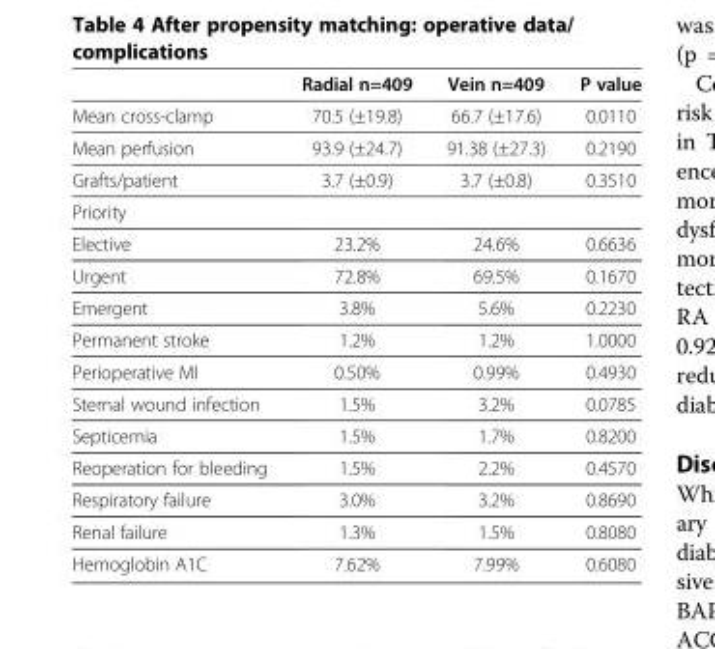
<table><thead><tr><td></td><td>Radial n=409</td><td>Vein n=409</td><td>P value</td></tr></thead><tbody><tr><td>Mean cross-clamp</td><td>70.5 (±19.8)</td><td>66.7 (±17.6)</td><td>0.0110</td></tr><tr><td>Mean perfusion</td><td>93.9 (±24.7)</td><td>91.38 (±27.3)</td><td>0.2190</td></tr><tr><td>Grafts/patient</td><td>3.7 (±0.9)</td><td>3.7 (±0.8)</td><td>0.3510</td></tr><tr><td colspan="4">Priority</td></tr><tr><td>Elective</td><td>23.2%</td><td>24.6%</td><td>0.6636</td></tr><tr><td>Urgent</td><td>72.8%</td><td>69.5%</td><td>0.1670</td></tr><tr><td>Emergent</td><td>3.8%</td><td>5.6%</td><td>0.2230</td></tr><tr><td>Permanent stroke</td><td>1.2%</td><td>1.2%</td><td>1.0000</td></tr><tr><td>Perioperative MI</td><td>0.50%</td><td>0.99%</td><td>0.4930</td></tr><tr><td>Sternal wound infection</td><td>1.5%</td><td>3.2%</td><td>0.0785</td></tr><tr><td>Septicemia</td><td>1.5%</td><td>1.7%</td><td>0.8200</td></tr><tr><td>Reoperation for bleeding</td><td>1.5%</td><td>2.2%</td><td>0.4570</td></tr><tr><td>Respiratory failure</td><td>3.0%</td><td>3.2%</td><td>0.8690</td></tr><tr><td>Renal failure</td><td>1.3%</td><td>1.5%</td><td>0.8080</td></tr><tr><td>Hemoglobin A1C</td><td>7.62%</td><td>7.99%</td><td>0.6080</td></tr></tbody></table>